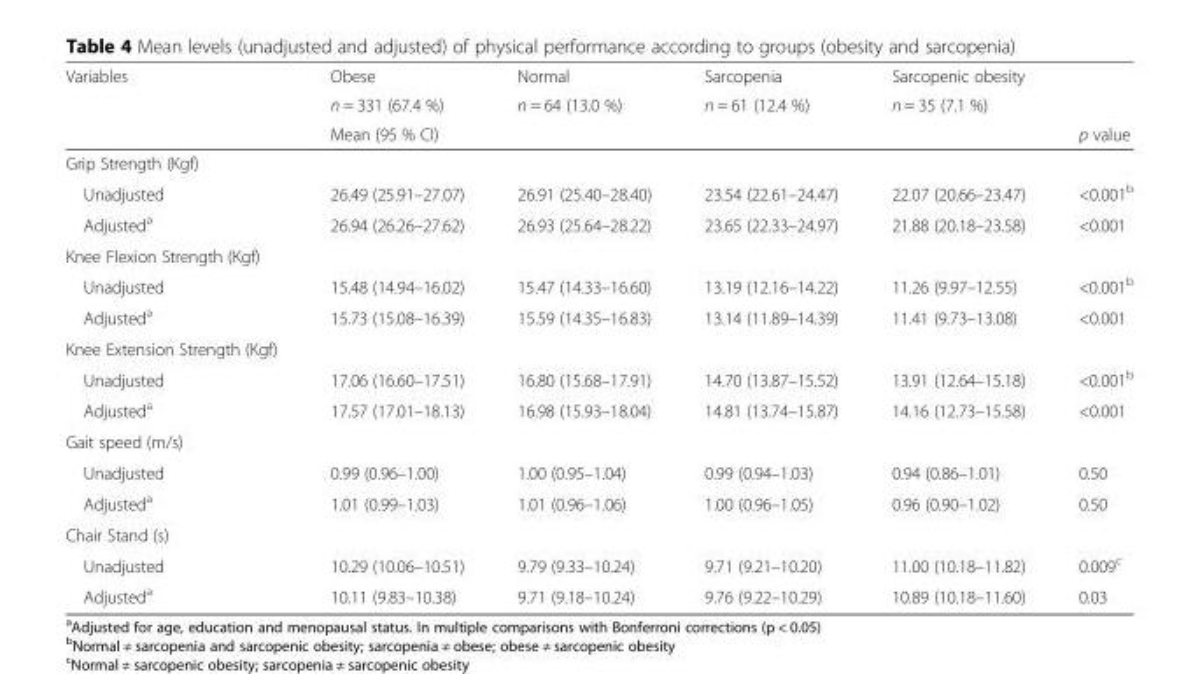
<table><thead><tr><td rowspan="3">Variables</td><td rowspan="2">Obese n = 331 (67.4 %)</td><td rowspan="2">Normal n = 64 (13.0 %)</td><td rowspan="2">Sarcopenia n = 61 (12.4 %)</td><td rowspan="2">Sarcopenic obesity n = 35 (7.1 %)</td><td rowspan="3">p value</td></tr><tr></tr><tr><td colspan="4">Mean (95 % CI)</td></tr></thead><tbody><tr><td colspan="6">Grip Strength (Kgf)</td></tr><tr><td>Unadjusted</td><td>26.49 (25.91–27.07)</td><td>26.91 (25.40–28.40)</td><td>23.54 (22.61–24.47)</td><td>22.07 (20.66–23.47)</td><td>&lt;0.001<sup>b</sup></td></tr><tr><td>Adjusted<sup>a</sup></td><td>26.94 (26.26–27.62)</td><td>26.93 (25.64–28.22)</td><td>23.65 (22.33–24.97)</td><td>21.88 (20.18–23.58)</td><td>&lt;0.001</td></tr><tr><td colspan="6">Knee Flexion Strength (Kgf)</td></tr><tr><td>Unadjusted</td><td>15.48 (14.94–16.02)</td><td>15.47 (14.33–16.60)</td><td>13.19 (12.16–14.22)</td><td>11.26 (9.97–12.55)</td><td>&lt;0.001<sup>b</sup></td></tr><tr><td>Adjusted<sup>a</sup></td><td>15.73 (15.08–16.39)</td><td>15.59 (14.35–16.83)</td><td>13.14 (11.89–14.39)</td><td>11.41 (9.73–13.08)</td><td>&lt;0.001</td></tr><tr><td colspan="6">Knee Extension Strength (Kgf)</td></tr><tr><td>Unadjusted</td><td>17.06 (16.60–17.51)</td><td>16.80 (15.68–17.91)</td><td>14.70 (13.87–15.52)</td><td>13.91 (12.64–15.18)</td><td>&lt;0.001<sup>b</sup></td></tr><tr><td>Adjusted<sup>a</sup></td><td>17.57 (17.01–18.13)</td><td>16.98 (15.93–18.04)</td><td>14.81 (13.74–15.87)</td><td>14.16 (12.73–15.58)</td><td>&lt;0.001</td></tr><tr><td colspan="6">Gait speed (m/s)</td></tr><tr><td>Unadjusted</td><td>0.99 (0.96–1.00)</td><td>1.00 (0.95–1.04)</td><td>0.99 (0.94–1.03)</td><td>0.94 (0.86–1.01)</td><td>0.50</td></tr><tr><td>Adjusted<sup>a</sup></td><td>1.01 (0.99–1.03)</td><td>1.01 (0.96–1.06)</td><td>1.00 (0.96–1.05)</td><td>0.96 (0.90–1.02)</td><td>0.50</td></tr><tr><td colspan="6">Chair Stand (s)</td></tr><tr><td>Unadjusted</td><td>10.29 (10.06–10.51)</td><td>9.79 (9.33–10.24)</td><td>9.71 (9.21–10.20)</td><td>11.00 (10.18–11.82)</td><td>0.009<sup>c</sup></td></tr><tr><td>Adjusted<sup>a</sup></td><td>10.11 (9.83–10.38)</td><td>9.71 (9.18–10.24)</td><td>9.76 (9.22–10.29)</td><td>10.89 (10.18–11.60)</td><td>0.03</td></tr></tbody></table>